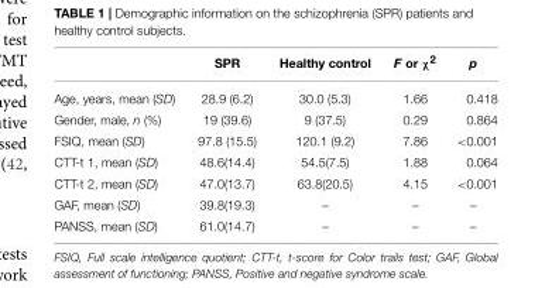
<table><thead><tr><td></td><td>SPR</td><td>Healthy control</td><td>F or χ<sup>2</sup></td><td>p</td></tr></thead><tbody><tr><td>Age, years, mean (SD)</td><td>28.9 (6.2)</td><td>30.0 (5.3)</td><td>1.66</td><td>0.418</td></tr><tr><td>Gender, male, n (%)</td><td>19 (39.6)</td><td>9 (37.5)</td><td>0.29</td><td>0.864</td></tr><tr><td>FSIQ, mean (SD)</td><td>97.8 (15.5)</td><td>120.1 (9.2)</td><td>7.86</td><td>&lt;0.001</td></tr><tr><td>CTT-t 1, mean (SD)</td><td>48.6(14.4)</td><td>54.5(7.5)</td><td>1.88</td><td>0.064</td></tr><tr><td>CTT-t 2, mean (SD)</td><td>47.0(13.7)</td><td>63.8(20.5)</td><td>4.15</td><td>&lt;0.001</td></tr><tr><td>GAF, mean (SD)</td><td>39.8(19.3)</td><td>–</td><td>–</td><td>–</td></tr><tr><td>PANSS, mean (SD)</td><td>61.0(14.7)</td><td>–</td><td>–</td><td>–</td></tr></tbody></table>